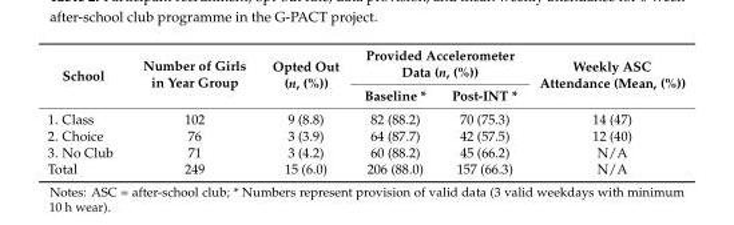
<table><thead><tr><td rowspan="2">School</td><td rowspan="2">Number of Girls in Year Group</td><td rowspan="2">Opted Out (n, (%))</td><td colspan="2">Provided Accelerometer Data (n, (%))</td><td rowspan="2">Weekly ASC Attendance (Mean, (%))</td></tr><tr><td>Baseline *</td><td>Post-INT *</td></tr></thead><tbody><tr><td>1. Class</td><td>102</td><td>9 (8.8)</td><td>82 (88.2)</td><td>70 (75.3)</td><td>14 (47)</td></tr><tr><td>2. Choice</td><td>76</td><td>3 (3.9)</td><td>64 (87.7)</td><td>42 (57.5)</td><td>12 (40)</td></tr><tr><td>3. No Club</td><td>71</td><td>3 (4.2)</td><td>60 (88.2)</td><td>45 (66.2)</td><td>N/A</td></tr><tr><td>Total</td><td>249</td><td>15 (6.0)</td><td>206 (88.0)</td><td>157 (66.3)</td><td>N/A</td></tr></tbody></table>